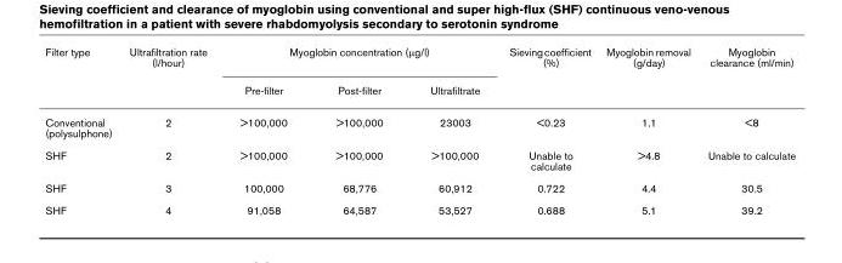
<table><thead><tr><td rowspan="2">Filter type</td><td rowspan="2">Ultrafiltration rate (l/hour)</td><td colspan="3">Myoglobin concentration (µg/l)</td><td rowspan="2">Sieving coefficient (%)</td><td rowspan="2">Myoglobin removal (g/day)</td><td rowspan="2">Myoglobin clearance (ml/min)</td></tr><tr><td>Pre-filter</td><td>Post-filter</td><td>Ultrafiltrate</td></tr></thead><tbody><tr><td>Conventional (polysulphone)</td><td>2</td><td>&gt;100,000</td><td>&gt;100,000</td><td>23003</td><td>&lt;0.23</td><td>1.1</td><td>&lt;8</td></tr><tr><td>SHF</td><td>2</td><td>&gt;100,000</td><td>&gt;100,000</td><td>&gt;100,000</td><td>Unable to calculate</td><td>&gt;4.8</td><td>Unable to calculate</td></tr><tr><td>SHF</td><td>3</td><td>100,000</td><td>68,776</td><td>60,912</td><td>0.722</td><td>4.4</td><td>30.5</td></tr><tr><td>SHF</td><td>4</td><td>91,058</td><td>64,587</td><td>53,527</td><td>0.688</td><td>5.1</td><td>39.2</td></tr></tbody></table>